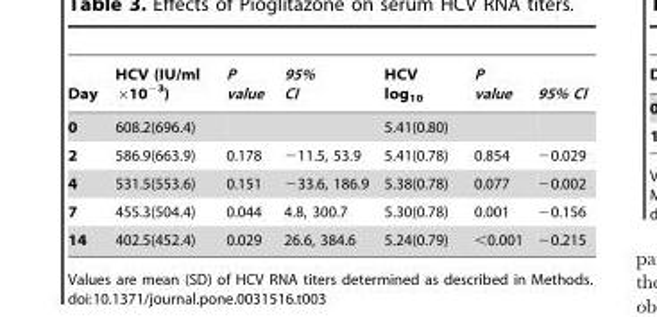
<table><thead><tr><td>Day</td><td>HCV (IU/ml ×10<sup>−3</sup>)</td><td>P value</td><td>95% CI</td><td>HCV log<sub>10</sub></td><td>P value</td><td>95% CI</td></tr></thead><tbody><tr><td>0</td><td>608.2(696.4)</td><td></td><td></td><td>5.41(0.80)</td><td></td><td></td></tr><tr><td>2</td><td>586.9(663.9)</td><td>0.178</td><td>−11.5, 53.9</td><td>5.41(0.78)</td><td>0.854</td><td>−0.029</td></tr><tr><td>4</td><td>531.5(553.6)</td><td>0.151</td><td>−33.6, 186.9</td><td>5.38(0.78)</td><td>0.077</td><td>−0.002</td></tr><tr><td>7</td><td>455.3(504.4)</td><td>0.044</td><td>4.8, 300.7</td><td>5.30(0.78)</td><td>0.001</td><td>−0.156</td></tr><tr><td>14</td><td>402.5(452.4)</td><td>0.029</td><td>26.6, 384.6</td><td>5.24(0.79)</td><td>&lt;0.001</td><td>−0.215</td></tr></tbody></table>